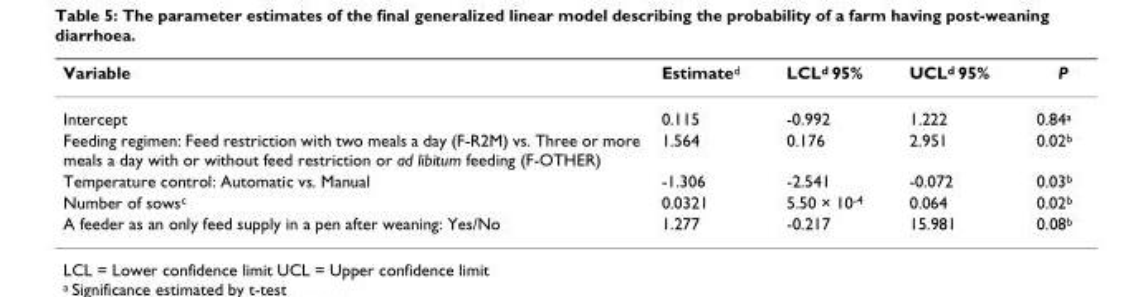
<table><thead><tr><td>Variable</td><td>Estimate<sup>d</sup></td><td>LCL<sup>d</sup> 95%</td><td>UCL<sup>d</sup> 95%</td><td>P</td></tr></thead><tbody><tr><td>Intercept</td><td>0.115</td><td>-0.992</td><td>1.222</td><td>0.84<sup>a</sup></td></tr><tr><td>Feeding regimen: Feed restriction with two meals a day (F-R2M) vs. Three or more meals a day with or without feed restriction or ad libitum feeding (F-OTHER)</td><td>1.564</td><td>0.176</td><td>2.951</td><td>0.02<sup>b</sup></td></tr><tr><td>Temperature control: Automatic vs. Manual</td><td>-1.306</td><td>-2.541</td><td>-0.072</td><td>0.03<sup>b</sup></td></tr><tr><td>Number of sows<sup>c</sup></td><td>0.0321</td><td>5.50 × 10<sup>-4</sup></td><td>0.064</td><td>0.02<sup>b</sup></td></tr><tr><td>A feeder as an only feed supply in a pen after weaning: Yes/No</td><td>1.277</td><td>-0.217</td><td>15.981</td><td>0.08<sup>b</sup></td></tr></tbody></table>